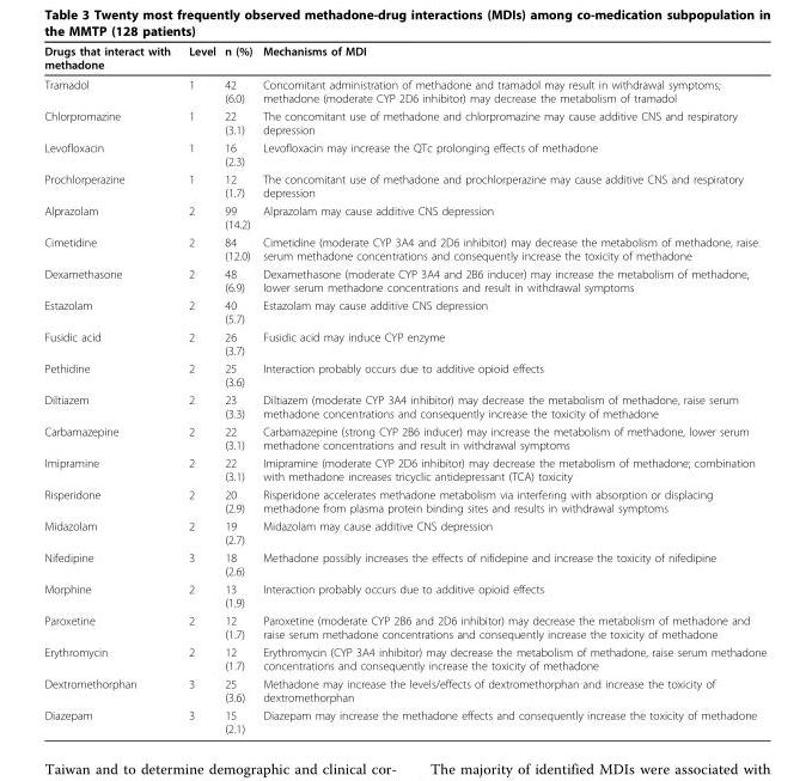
<table><thead><tr><td>Drugs that interact with methadone</td><td>Level</td><td>n (%)</td><td>Mechanisms of MDI</td></tr></thead><tbody><tr><td>Tramadol</td><td>1</td><td>42 (6.0)</td><td>Concomitant administration of methadone and tramadol may result in withdrawal symptoms; methadone (moderate CYP 2D6 inhibitor) may decrease the metabolism of tramadol</td></tr><tr><td>Chlorpromazine</td><td>1</td><td>22 (3.1)</td><td>The concomitant use of methadone and chlorpromazine may cause additive CNS and respiratory depression</td></tr><tr><td>Levofloxacin</td><td>1</td><td>16 (2.3)</td><td>Levofloxacin may increase the QTc prolonging effects of methadone</td></tr><tr><td>Prochlorperazine</td><td>1</td><td>12 (1.7)</td><td>The concomitant use of methadone and prochlorperazine may cause additive CNS and respiratory depression</td></tr><tr><td>Alprazolam</td><td>2</td><td>99 (14.2)</td><td>Alprazolam may cause additive CNS depression</td></tr><tr><td>Cimetidine</td><td>2</td><td>84 (12.0)</td><td>Cimetidine (moderate CYP 3A4 and 2D6 inhibitor) may decrease the metabolism of methadone, raise serum methadone concentrations and consequently increase the toxicity of methadone</td></tr><tr><td>Dexamethasone</td><td>2</td><td>48 (6.9)</td><td>Dexamethasone (moderate CYP 3A4 and 2B6 inducer) may increase the metabolism of methadone, lower serum methadone concentrations and result in withdrawal symptoms</td></tr><tr><td>Estazolam</td><td>2</td><td>40 (5.7)</td><td>Estazolam may cause additive CNS depression</td></tr><tr><td>Fusidic acid</td><td>2</td><td>26 (3.7)</td><td>Fusidic acid may induce CYP enzyme</td></tr><tr><td>Pethidine</td><td>2</td><td>25 (3.6)</td><td>Interaction probably occurs due to additive opioid effects</td></tr><tr><td>Diltiazem</td><td>2</td><td>23 (3.3)</td><td>Diltiazem (moderate CYP 3A4 inhibitor) may decrease the metabolism of methadone, raise serum methadone concentrations and consequently increase the toxicity of methadone</td></tr><tr><td>Carbamazepine</td><td>2</td><td>22 (3.1)</td><td>Carbamazepine (strong CYP 2B6 inducer) may increase the metabolism of methadone, lower serum methadone concentrations and result in withdrawal symptoms</td></tr><tr><td>Imipramine</td><td>2</td><td>22 (3.1)</td><td>Imipramine (moderate CYP 2D6 inhibitor) may decrease the metabolism of methadone; combination with methadone increases tricyclic antidepressant (TCA) toxicity</td></tr><tr><td>Risperidone</td><td>2</td><td>20 (2.9)</td><td>Risperidone accelerates methadone metabolism via interfering with absorption or displacing methadone from plasma protein binding sites and results in withdrawal symptoms</td></tr><tr><td>Midazolam</td><td>2</td><td>19 (2.7)</td><td>Midazolam may cause additive CNS depression</td></tr><tr><td>Nifedipine</td><td>3</td><td>18 (2.6)</td><td>Methadone possibly increases the effects of nifidepine and increase the toxicity of nifedipine</td></tr><tr><td>Morphine</td><td>2</td><td>13 (1.9)</td><td>Interaction probably occurs due to additive opioid effects</td></tr><tr><td>Paroxetine</td><td>2</td><td>12 (1.7)</td><td>Paroxetine (moderate CYP 2B6 and 2D6 inhibitor) may decrease the metabolism of methadone and raise serum methadone concentrations and consequently increase the toxicity of methadone</td></tr><tr><td>Erythromycin</td><td>2</td><td>12 (1.7)</td><td>Erythromycin (CYP 3A4 inhibitor) may decrease the metabolism of methadone, raise serum methadone concentrations and consequently increase the toxicity of methadone</td></tr><tr><td>Dextromethorphan</td><td>3</td><td>25 (3.6)</td><td>Methadone may increase the levels/effects of dextromethorphan and increase the toxicity of dextromethorphan</td></tr><tr><td>Diazepam</td><td>3</td><td>15 (2.1)</td><td>Diazepam may increase the methadone effects and consequently increase the toxicity of methadone</td></tr></tbody></table>